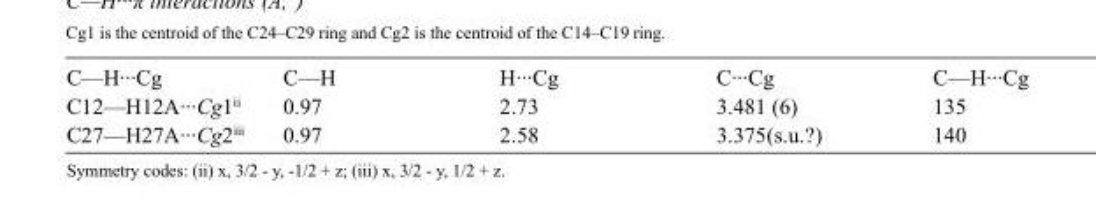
<table><tbody><tr><td>C—H···Cg</td><td>C—H</td><td>H···Cg</td><td>C···Cg</td><td>C—H···Cg</td></tr><tr><td>C12—H12A···Cg1<sup>ii</sup></td><td>0.97</td><td>2.73</td><td>3.481 (6)</td><td>135</td></tr><tr><td>C27—H27A···Cg2<sup>iii</sup></td><td>0.97</td><td>2.58</td><td>3.375(s.u.?)</td><td>140</td></tr></tbody></table>